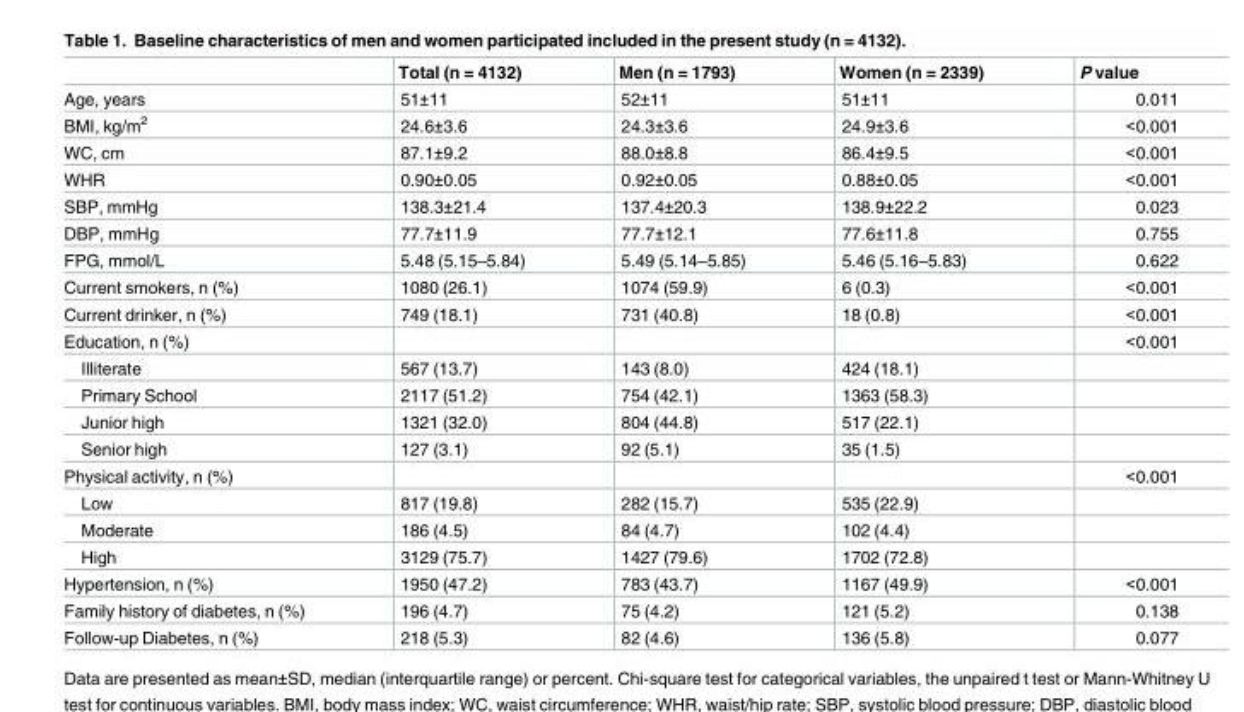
<table><thead><tr><td></td><td>Total (n = 4132)</td><td>Men (n = 1793)</td><td>Women (n = 2339)</td><td>P value</td></tr></thead><tbody><tr><td>Age, years</td><td>51±11</td><td>52±11</td><td>51±11</td><td>0.011</td></tr><tr><td>BMI, kg/m<sup>2</sup></td><td>24.6±3.6</td><td>24.3±3.6</td><td>24.9±3.6</td><td>&lt;0.001</td></tr><tr><td>WC, cm</td><td>87.1±9.2</td><td>88.0±8.8</td><td>86.4±9.5</td><td>&lt;0.001</td></tr><tr><td>WHR</td><td>0.90±0.05</td><td>0.92±0.05</td><td>0.88±0.05</td><td>&lt;0.001</td></tr><tr><td>SBP, mmHg</td><td>138.3±21.4</td><td>137.4±20.3</td><td>138.9±22.2</td><td>0.023</td></tr><tr><td>DBP, mmHg</td><td>77.7±11.9</td><td>77.7±12.1</td><td>77.6±11.8</td><td>0.755</td></tr><tr><td>FPG, mmol/L</td><td>5.48 (5.15–5.84)</td><td>5.49 (5.14–5.85)</td><td>5.46 (5.16–5.83)</td><td>0.622</td></tr><tr><td>Current smokers, n (%)</td><td>1080 (26.1)</td><td>1074 (59.9)</td><td>6 (0.3)</td><td>&lt;0.001</td></tr><tr><td>Current drinker, n (%)</td><td>749 (18.1)</td><td>731 (40.8)</td><td>18 (0.8)</td><td>&lt;0.001</td></tr><tr><td>Education, n (%)</td><td></td><td></td><td></td><td>&lt;0.001</td></tr><tr><td>Illiterate</td><td>567 (13.7)</td><td>143 (8.0)</td><td>424 (18.1)</td><td></td></tr><tr><td>Primary School</td><td>2117 (51.2)</td><td>754 (42.1)</td><td>1363 (58.3)</td><td></td></tr><tr><td>Junior high</td><td>1321 (32.0)</td><td>804 (44.8)</td><td>517 (22.1)</td><td></td></tr><tr><td>Senior high</td><td>127 (3.1)</td><td>92 (5.1)</td><td>35 (1.5)</td><td></td></tr><tr><td>Physical activity, n (%)</td><td></td><td></td><td></td><td>&lt;0.001</td></tr><tr><td>Low</td><td>817 (19.8)</td><td>282 (15.7)</td><td>535 (22.9)</td><td></td></tr><tr><td>Moderate</td><td>186 (4.5)</td><td>84 (4.7)</td><td>102 (4.4)</td><td></td></tr><tr><td>High</td><td>3129 (75.7)</td><td>1427 (79.6)</td><td>1702 (72.8)</td><td></td></tr><tr><td>Hypertension, n (%)</td><td>1950 (47.2)</td><td>783 (43.7)</td><td>1167 (49.9)</td><td>&lt;0.001</td></tr><tr><td>Family history of diabetes, n (%)</td><td>196 (4.7)</td><td>75 (4.2)</td><td>121 (5.2)</td><td>0.138</td></tr><tr><td>Follow-up Diabetes, n (%)</td><td>218 (5.3)</td><td>82 (4.6)</td><td>136 (5.8)</td><td>0.077</td></tr></tbody></table>